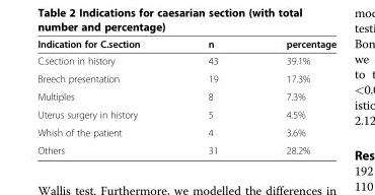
<table><thead><tr><td>Indication for C.section</td><td>n</td><td>percentage</td></tr></thead><tbody><tr><td>C.section in history</td><td>43</td><td>39.1%</td></tr><tr><td>Breech presentation</td><td>19</td><td>17.3%</td></tr><tr><td>Multiples</td><td>8</td><td>7.3%</td></tr><tr><td>Uterus surgery in history</td><td>5</td><td>4.5%</td></tr><tr><td>Whish of the patient</td><td>4</td><td>3.6%</td></tr><tr><td>Others</td><td>31</td><td>28.2%</td></tr></tbody></table>